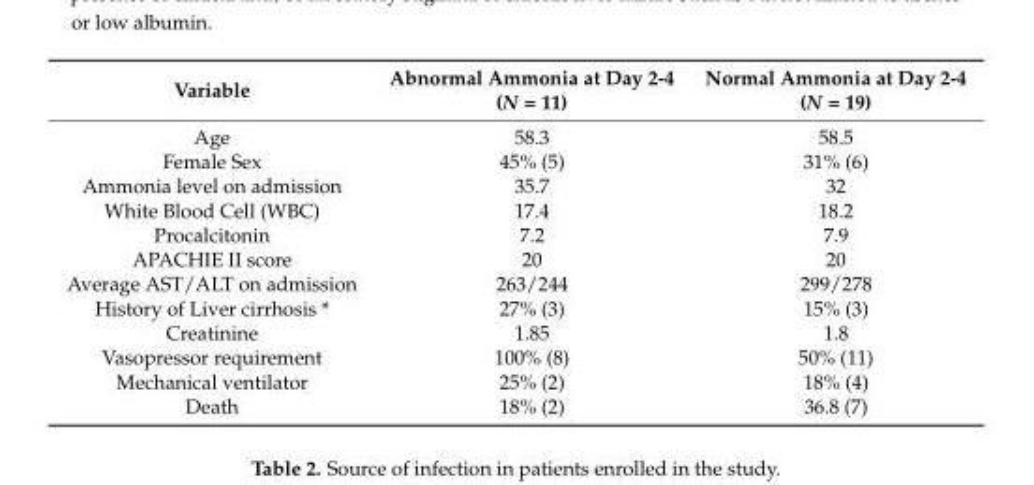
<table><thead><tr><td>Variable</td><td>Abnormal Ammonia at Day 2-4 (N = 11)</td><td>Normal Ammonia at Day 2-4 (N = 19)</td></tr></thead><tbody><tr><td>Age</td><td>58.3</td><td>58.5</td></tr><tr><td>Female Sex</td><td>45% (5)</td><td>31% (6)</td></tr><tr><td>Ammonia level on admission</td><td>35.7</td><td>32</td></tr><tr><td>White Blood Cell (WBC)</td><td>17.4</td><td>18.2</td></tr><tr><td>Procalcitonin</td><td>7.2</td><td>7.9</td></tr><tr><td>APACHIE II score</td><td>20</td><td>20</td></tr><tr><td>Average AST/ALT on admission</td><td>263/244</td><td>299/278</td></tr><tr><td>History of Liver cirrhosis *</td><td>27% (3)</td><td>15% (3)</td></tr><tr><td>Creatinine</td><td>1.85</td><td>1.8</td></tr><tr><td>Vasopressor requirement</td><td>100% (8)</td><td>50% (11)</td></tr><tr><td>Mechanical ventilator</td><td>25% (2)</td><td>18% (4)</td></tr><tr><td>Death</td><td>18% (2)</td><td>36.8 (7)</td></tr></tbody></table>